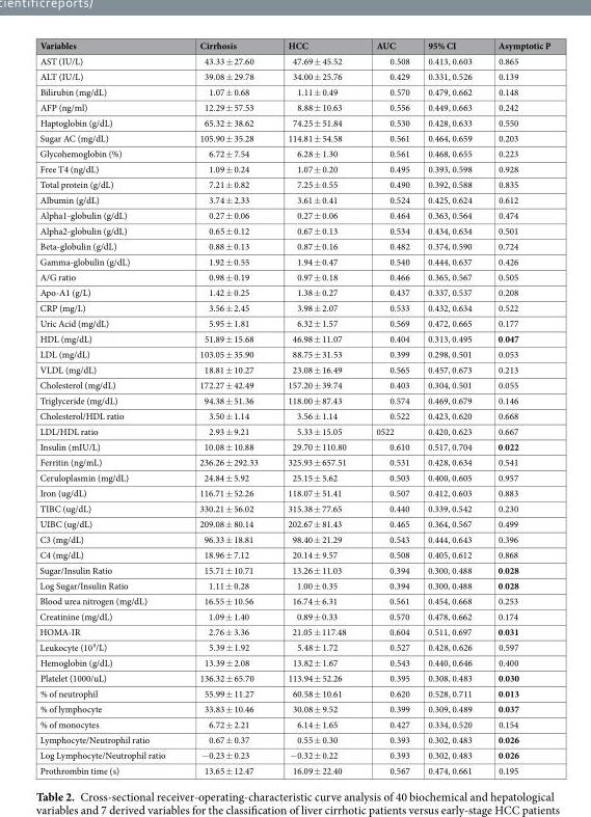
<table><thead><tr><td>Variables</td><td>Cirrhosis</td><td>HCC</td><td>AUC</td><td>95% CI</td><td>Asymptotic P</td></tr></thead><tbody><tr><td>AST (IU/L)</td><td>43.33 ± 27.60</td><td>47.69 ± 45.52</td><td>0.508</td><td>0.413, 0.603</td><td>0.865</td></tr><tr><td>ALT (IU/L)</td><td>39.08 ± 29.78</td><td>34.00 ± 25.76</td><td>0.429</td><td>0.331, 0.526</td><td>0.139</td></tr><tr><td>Bilirubin (mg/dL)</td><td>1.07 ± 0.68</td><td>1.11 ± 0.49</td><td>0.570</td><td>0.479, 0.662</td><td>0.148</td></tr><tr><td>AFP (ng/ml)</td><td>12.29 ± 57.53</td><td>8.88 ± 10.63</td><td>0.556</td><td>0.449, 0.663</td><td>0.242</td></tr><tr><td>Haptoglobin (g/dL)</td><td>65.32 ± 38.62</td><td>74.25 ± 51.84</td><td>0.530</td><td>0.428, 0.633</td><td>0.550</td></tr><tr><td>Sugar AC (mg/dL)</td><td>105.90 ± 35.28</td><td>114.81 ± 54.58</td><td>0.561</td><td>0.464, 0.659</td><td>0.203</td></tr><tr><td>Glycohemoglobin (%)</td><td>6.72 ± 7.54</td><td>6.28 ± 1.30</td><td>0.561</td><td>0.468, 0.655</td><td>0.223</td></tr><tr><td>Free T4 (ng/dL)</td><td>1.09 ± 0.24</td><td>1.07 ± 0.20</td><td>0.495</td><td>0.393, 0.598</td><td>0.928</td></tr><tr><td>Total protein (g/dL)</td><td>7.21 ± 0.82</td><td>7.25 ± 0.55</td><td>0.490</td><td>0.392, 0.588</td><td>0.835</td></tr><tr><td>Albumin (g/dL)</td><td>3.74 ± 2.33</td><td>3.61 ± 0.41</td><td>0.524</td><td>0.425, 0.624</td><td>0.612</td></tr><tr><td>Alpha1-globulin (g/dL)</td><td>0.27 ± 0.06</td><td>0.27 ± 0.06</td><td>0.464</td><td>0.363, 0.564</td><td>0.474</td></tr><tr><td>Alpha2-globulin (g/dL)</td><td>0.65 ± 0.12</td><td>0.67 ± 0.13</td><td>0.534</td><td>0.434, 0.634</td><td>0.501</td></tr><tr><td>Beta-globulin (g/dL)</td><td>0.88 ± 0.13</td><td>0.87 ± 0.16</td><td>0.482</td><td>0.374, 0.590</td><td>0.724</td></tr><tr><td>Gamma-globulin (g/dL)</td><td>1.92 ± 0.55</td><td>1.94 ± 0.47</td><td>0.540</td><td>0.444, 0.637</td><td>0.426</td></tr><tr><td>A/G ratio</td><td>0.98 ± 0.19</td><td>0.97 ± 0.18</td><td>0.466</td><td>0.365, 0.567</td><td>0.505</td></tr><tr><td>Apo-A1 (g/L)</td><td>1.42 ± 0.25</td><td>1.38 ± 0.27</td><td>0.437</td><td>0.337, 0.537</td><td>0.208</td></tr><tr><td>CRP (mg/L)</td><td>3.56 ± 2.45</td><td>3.98 ± 2.07</td><td>0.533</td><td>0.432, 0.634</td><td>0.522</td></tr><tr><td>Uric Acid (mg/dL)</td><td>5.95 ± 1.81</td><td>6.32 ± 1.57</td><td>0.569</td><td>0.472, 0.665</td><td>0.177</td></tr><tr><td>HDL (mg/dL)</td><td>51.89 ± 15.68</td><td>46.98 ± 11.07</td><td>0.404</td><td>0.313, 0.495</td><td>0.047</td></tr><tr><td>LDL (mg/dL)</td><td>103.05 ± 35.90</td><td>88.75 ± 31.53</td><td>0.399</td><td>0.298, 0.501</td><td>0.053</td></tr><tr><td>VLDL (mg/dL)</td><td>18.81 ± 10.27</td><td>23.08 ± 16.49</td><td>0.565</td><td>0.457, 0.673</td><td>0.213</td></tr><tr><td>Cholesterol (mg/dL)</td><td>172.27 ± 42.49</td><td>157.20 ± 39.74</td><td>0.403</td><td>0.304, 0.501</td><td>0.055</td></tr><tr><td>Triglyceride (mg/dL)</td><td>94.38 ± 51.36</td><td>118.00 ± 87.43</td><td>0.574</td><td>0.469, 0.679</td><td>0.146</td></tr><tr><td>Cholesterol/HDL ratio</td><td>3.50 ± 1.14</td><td>3.56 ± 1.14</td><td>0.522</td><td>0.423, 0.620</td><td>0.668</td></tr><tr><td>LDL/HDL ratio</td><td>2.93 ± 9.21</td><td>5.33 ± 15.05</td><td>0522</td><td>0.420, 0.623</td><td>0.667</td></tr><tr><td>Insulin (mIU/L)</td><td>10.08 ± 10.88</td><td>29.70 ± 110.80</td><td>0.610</td><td>0.517, 0.704</td><td>0.022</td></tr><tr><td>Ferritin (ng/mL)</td><td>236.26 ± 292.33</td><td>325.93 ± 657.51</td><td>0.531</td><td>0.428, 0.634</td><td>0.541</td></tr><tr><td>Ceruloplasmin (mg/dL)</td><td>24.84 ± 5.92</td><td>25.15 ± 5.62</td><td>0.503</td><td>0.400, 0.605</td><td>0.957</td></tr><tr><td>Iron (ug/dL)</td><td>116.71 ± 52.26</td><td>118.07 ± 51.41</td><td>0.507</td><td>0.412, 0.603</td><td>0.883</td></tr><tr><td>TIBC (ug/dL)</td><td>330.21 ± 56.02</td><td>315.38 ± 77.65</td><td>0.440</td><td>0.339, 0.542</td><td>0.230</td></tr><tr><td>UIBC (ug/dL)</td><td>209.08 ± 80.14</td><td>202.67 ± 81.43</td><td>0.465</td><td>0.364, 0.567</td><td>0.499</td></tr><tr><td>C3 (mg/dL)</td><td>96.33 ± 18.81</td><td>98.40 ± 21.29</td><td>0.543</td><td>0.444, 0.643</td><td>0.396</td></tr><tr><td>C4 (mg/dL)</td><td>18.96 ± 7.12</td><td>20.14 ± 9.57</td><td>0.508</td><td>0.405, 0.612</td><td>0.868</td></tr><tr><td>Sugar/Insulin Ratio</td><td>15.71 ± 10.71</td><td>13.26 ± 11.03</td><td>0.394</td><td>0.300, 0.488</td><td>0.028</td></tr><tr><td>Log Sugar/Insulin Ratio</td><td>1.11 ± 0.28</td><td>1.00 ± 0.35</td><td>0.394</td><td>0.300, 0.488</td><td>0.028</td></tr><tr><td>Blood urea nitrogen (mg/dL)</td><td>16.55 ± 10.56</td><td>16.74 ± 6.31</td><td>0.561</td><td>0.454, 0.668</td><td>0.253</td></tr><tr><td>Creatinine (mg/dL)</td><td>1.09 ± 1.40</td><td>0.89 ± 0.33</td><td>0.570</td><td>0.478, 0.662</td><td>0.174</td></tr><tr><td>HOMA-IR</td><td>2.76 ± 3.36</td><td>21.05 ± 117.48</td><td>0.604</td><td>0.511, 0.697</td><td>0.031</td></tr><tr><td>Leukocyte (10<sup>9</sup>/L)</td><td>5.39 ± 1.92</td><td>5.48 ± 1.72</td><td>0.527</td><td>0.428, 0.626</td><td>0.597</td></tr><tr><td>Hemoglobin (g/dL)</td><td>13.39 ± 2.08</td><td>13.82 ± 1.67</td><td>0.543</td><td>0.440, 0.646</td><td>0.400</td></tr><tr><td>Platelet (1000/uL)</td><td>136.32 ± 65.70</td><td>113.94 ± 52.26</td><td>0.395</td><td>0.308, 0.483</td><td>0.030</td></tr><tr><td>% of neutrophil</td><td>55.99 ± 11.27</td><td>60.58 ± 10.61</td><td>0.620</td><td>0.528, 0.711</td><td>0.013</td></tr><tr><td>% of lymphocyte</td><td>33.83 ± 10.46</td><td>30.08 ± 9.52</td><td>0.399</td><td>0.309, 0.489</td><td>0.037</td></tr><tr><td>% of monocytes</td><td>6.72 ± 2.21</td><td>6.14 ± 1.65</td><td>0.427</td><td>0.334, 0.520</td><td>0.154</td></tr><tr><td>Lymphocyte/Neutrophil ratio</td><td>0.67 ± 0.37</td><td>0.55 ± 0.30</td><td>0.393</td><td>0.302, 0.483</td><td>0.026</td></tr><tr><td>Log Lymphocyte/Neutrophil ratio</td><td>−0.23 ± 0.23</td><td>−0.32 ± 0.22</td><td>0.393</td><td>0.302, 0.483</td><td>0.026</td></tr><tr><td>Prothrombin time (s)</td><td>13.65 ± 12.47</td><td>16.09 ± 22.40</td><td>0.567</td><td>0.474, 0.661</td><td>0.195</td></tr></tbody></table>